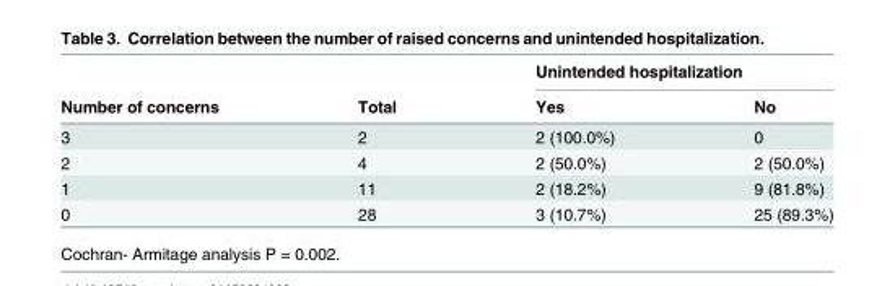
<table><thead><tr><td rowspan="2">Number of concerns</td><td rowspan="2">Total</td><td colspan="2">Unintended hospitalization</td></tr><tr><td>Yes</td><td>No</td></tr></thead><tbody><tr><td>3</td><td>2</td><td>2 (100.0%)</td><td>0</td></tr><tr><td>2</td><td>4</td><td>2 (50.0%)</td><td>2 (50.0%)</td></tr><tr><td>1</td><td>11</td><td>2 (18.2%)</td><td>9 (81.8%)</td></tr><tr><td>0</td><td>28</td><td>3 (10.7%)</td><td>25 (89.3%)</td></tr></tbody></table>